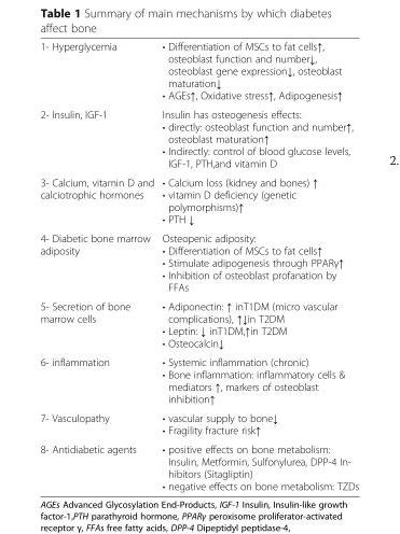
<table><tbody><tr><td>1- Hyperglycemia</td><td>• Differentiation of MSCs to fat cells↑, osteoblast function and number↓, osteoblast gene expression↓, osteoblast maturation↓ • AGEs↑, Oxidative stress↑, Adipogenesis↑</td></tr><tr><td>2- Insulin, IGF-1</td><td>Insulin has osteogenesis effects: • directly: osteoblast function and number↑, osteoblast maturation↑ • Indirectly: control of blood glucose levels, IGF-1, PTH,and vitamin D</td></tr><tr><td>3- Calcium, vitamin D and calciotrophic hormones</td><td>• Calcium loss (kidney and bones) ↑ • vitamin D deficiency (genetic polymorphisms)↑ • PTH ↓</td></tr><tr><td>4- Diabetic bone marrow adiposity</td><td>Osteopenic adiposity: • Differentiation of MSCs to fat cells↑ • Stimulate adipogenesis through PPARγ↑ • Inhibition of osteoblast profanation by FFAs</td></tr><tr><td>5- Secretion of bone marrow cells</td><td>• Adiponectin: ↑ inT1DM (micro vascular complications), ↑↓in T2DM • Leptin: ↓ inT1DM,↑in T2DM • Osteocalcin↓</td></tr><tr><td>6- inflammation</td><td>• Systemic inflammation (chronic) • Bone inflammation: inflammatory cells &amp; mediators ↑, markers of osteoblast inhibition↑</td></tr><tr><td>7- Vasculopathy</td><td>• vascular supply to bone↓ • Fragility fracture risk↑</td></tr><tr><td>8- Antidiabetic agents</td><td>• positive effects on bone metabolism: Insulin, Metformin, Sulfonylurea, DPP-4 In- hibitors (Sitagliptin) • negative effects on bone metabolism: TZDs</td></tr></tbody></table>